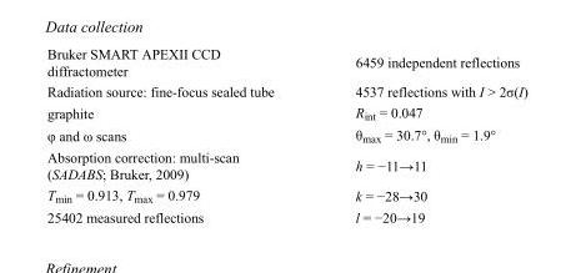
<table><tbody><tr><td>Bruker SMART APEXII CCD diffractometer</td><td>6459 independent reflections</td></tr><tr><td>Radiation source: fine-focus sealed tube</td><td>4537 reflections with I &gt; 2σ(I)</td></tr><tr><td>graphite</td><td>R<sub>int</sub> = 0.047</td></tr><tr><td>φ and ω scans</td><td>θ<sub>max</sub> = 30.7°, θ<sub>min</sub> = 1.9°</td></tr><tr><td>Absorption correction: multi-scan (SADABS; Bruker, 2009)</td><td>h = −11→11</td></tr><tr><td>T<sub>min</sub> = 0.913, T<sub>max</sub> = 0.979</td><td>k = −28→30</td></tr><tr><td>25402 measured reflections</td><td>l = −20→19</td></tr></tbody></table>